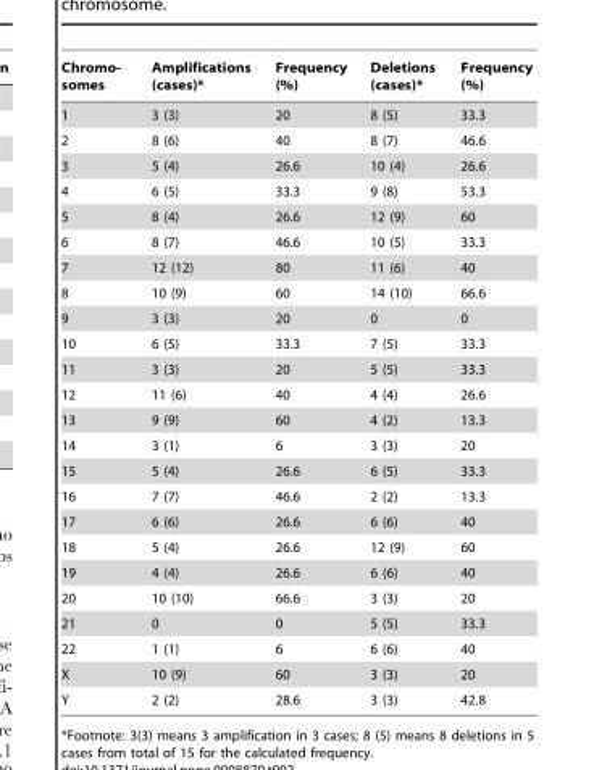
<table><thead><tr><td>Chromo- somes</td><td>Amplifications (cases)*</td><td>Frequency (%)</td><td>Deletions (cases)*</td><td>Frequency (%)</td></tr></thead><tbody><tr><td>1</td><td>3 (3)</td><td>20</td><td>8 (5)</td><td>33.3</td></tr><tr><td>2</td><td>8 (6)</td><td>40</td><td>8 (7)</td><td>46.6</td></tr><tr><td>3</td><td>5 (4)</td><td>26.6</td><td>10 (4)</td><td>26.6</td></tr><tr><td>4</td><td>6 (5)</td><td>33.3</td><td>9 (8)</td><td>53.3</td></tr><tr><td>5</td><td>8 (4)</td><td>26.6</td><td>12 (9)</td><td>60</td></tr><tr><td>6</td><td>8 (7)</td><td>46.6</td><td>10 (5)</td><td>33.3</td></tr><tr><td>7</td><td>12 (12)</td><td>80</td><td>11 (6)</td><td>40</td></tr><tr><td>8</td><td>10 (9)</td><td>60</td><td>14 (10)</td><td>66.6</td></tr><tr><td>9</td><td>3 (3)</td><td>20</td><td>0</td><td>0</td></tr><tr><td>10</td><td>6 (5)</td><td>33.3</td><td>7 (5)</td><td>33.3</td></tr><tr><td>11</td><td>3 (3)</td><td>20</td><td>5 (5)</td><td>33.3</td></tr><tr><td>12</td><td>11 (6)</td><td>40</td><td>4 (4)</td><td>26.6</td></tr><tr><td>13</td><td>9 (9)</td><td>60</td><td>4 (2)</td><td>13.3</td></tr><tr><td>14</td><td>3 (1)</td><td>6</td><td>3 (3)</td><td>20</td></tr><tr><td>15</td><td>5 (4)</td><td>26.6</td><td>6 (5)</td><td>33.3</td></tr><tr><td>16</td><td>7 (7)</td><td>46.6</td><td>2 (2)</td><td>13.3</td></tr><tr><td>17</td><td>6 (6)</td><td>26.6</td><td>6 (6)</td><td>40</td></tr><tr><td>18</td><td>5 (4)</td><td>26.6</td><td>12 (9)</td><td>60</td></tr><tr><td>19</td><td>4 (4)</td><td>26.6</td><td>6 (6)</td><td>40</td></tr><tr><td>20</td><td>10 (10)</td><td>66.6</td><td>3 (3)</td><td>20</td></tr><tr><td>21</td><td>0</td><td>0</td><td>5 (5)</td><td>33.3</td></tr><tr><td>22</td><td>1 (1)</td><td>6</td><td>6 (6)</td><td>40</td></tr><tr><td>X</td><td>10 (9)</td><td>60</td><td>3 (3)</td><td>20</td></tr><tr><td>Y</td><td>2 (2)</td><td>28.6</td><td>3 (3)</td><td>42.8</td></tr></tbody></table>